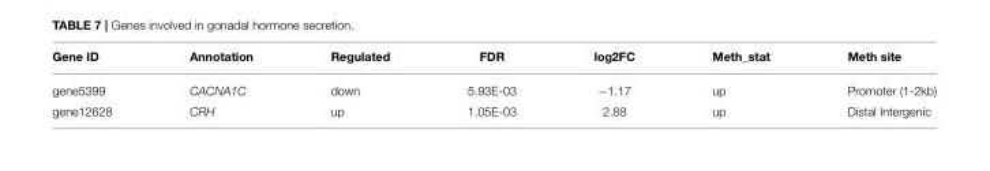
<table><thead><tr><td>Gene ID</td><td>Annotation</td><td>Regulated</td><td>FDR</td><td>log2FC</td><td>Meth_stat</td><td>Meth site</td></tr></thead><tbody><tr><td>gene5399</td><td>CACNA1C</td><td>down</td><td>5.93E-03</td><td>−1.17</td><td>up</td><td>Promoter (1-2kb)</td></tr><tr><td>gene12628</td><td>CRH</td><td>up</td><td>1.05E-03</td><td>2.88</td><td>up</td><td>Distal Intergenic</td></tr></tbody></table>